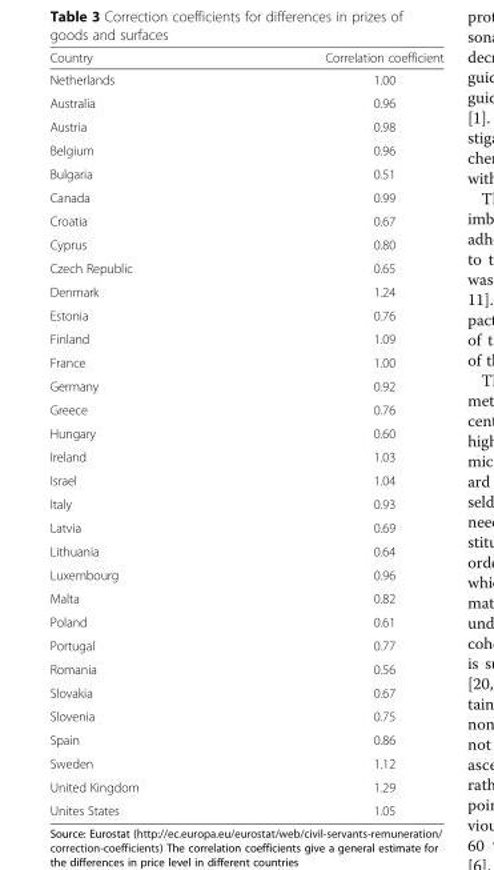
<table><thead><tr><td>Country</td><td>Correlation coefficient</td></tr></thead><tbody><tr><td>Netherlands</td><td>1.00</td></tr><tr><td>Australia</td><td>0.96</td></tr><tr><td>Austria</td><td>0.98</td></tr><tr><td>Belgium</td><td>0.96</td></tr><tr><td>Bulgaria</td><td>0.51</td></tr><tr><td>Canada</td><td>0.99</td></tr><tr><td>Croatia</td><td>0.67</td></tr><tr><td>Cyprus</td><td>0.80</td></tr><tr><td>Czech Republic</td><td>0.65</td></tr><tr><td>Denmark</td><td>1.24</td></tr><tr><td>Estonia</td><td>0.76</td></tr><tr><td>Finland</td><td>1.09</td></tr><tr><td>France</td><td>1.00</td></tr><tr><td>Germany</td><td>0.92</td></tr><tr><td>Greece</td><td>0.76</td></tr><tr><td>Hungary</td><td>0.60</td></tr><tr><td>Ireland</td><td>1.03</td></tr><tr><td>Israel</td><td>1.04</td></tr><tr><td>Italy</td><td>0.93</td></tr><tr><td>Latvia</td><td>0.69</td></tr><tr><td>Lithuania</td><td>0.64</td></tr><tr><td>Luxembourg</td><td>0.96</td></tr><tr><td>Malta</td><td>0.82</td></tr><tr><td>Poland</td><td>0.61</td></tr><tr><td>Portugal</td><td>0.77</td></tr><tr><td>Romania</td><td>0.56</td></tr><tr><td>Slovakia</td><td>0.67</td></tr><tr><td>Slovenia</td><td>0.75</td></tr><tr><td>Spain</td><td>0.86</td></tr><tr><td>Sweden</td><td>1.12</td></tr><tr><td>United Kingdom</td><td>1.29</td></tr><tr><td>Unites States</td><td>1.05</td></tr></tbody></table>